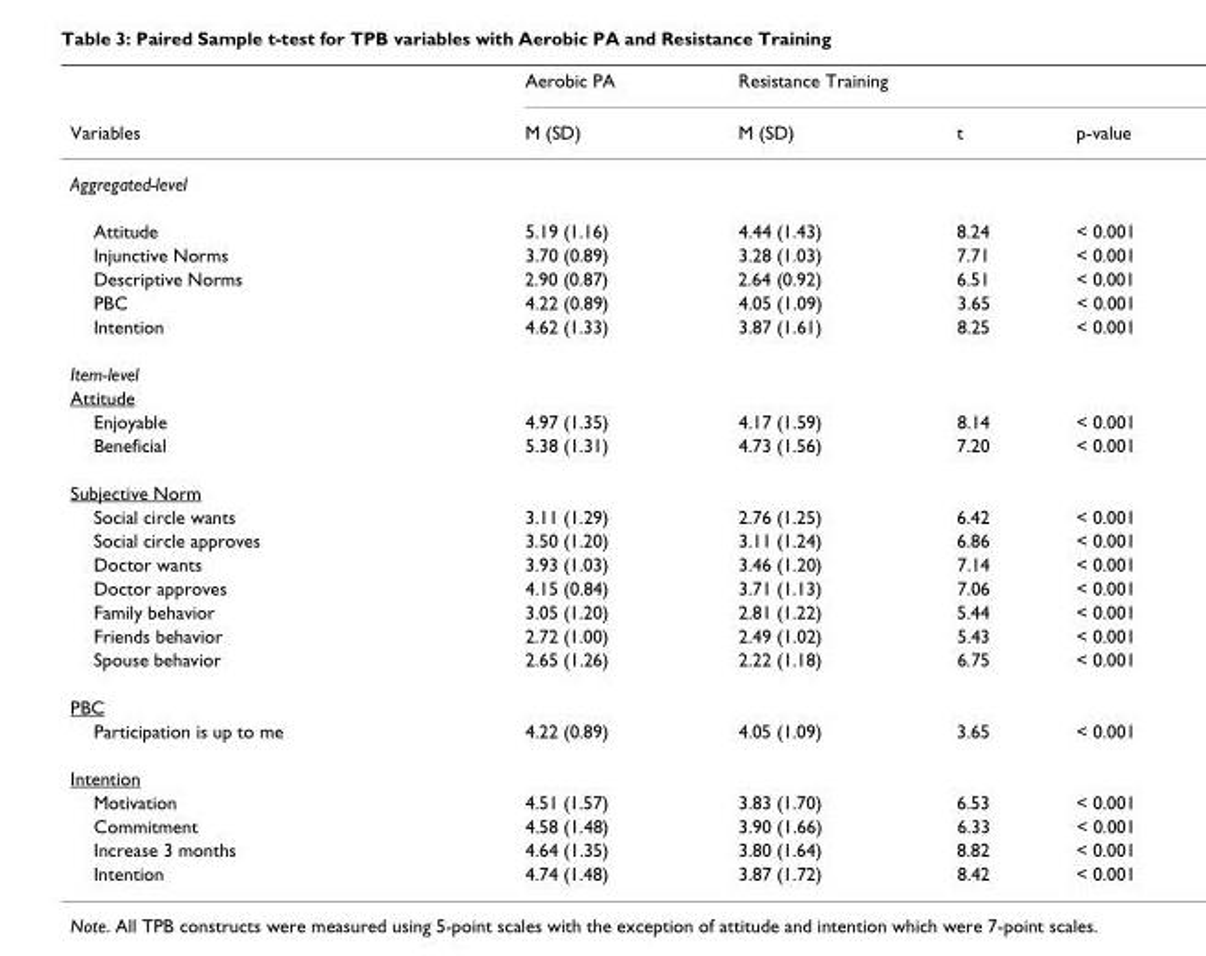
<table><thead><tr><td rowspan="2">Variables</td><td rowspan="2">Aerobic PA M (SD)</td><td colspan="2">Resistance Training</td><td rowspan="2">p-value</td></tr><tr><td>M (SD)</td><td>t</td></tr></thead><tbody><tr><td colspan="5">Aggregated-level</td></tr><tr><td>Attitude</td><td>5.19 (1.16)</td><td>4.44 (1.43)</td><td>8.24</td><td>&lt; 0.001</td></tr><tr><td>Injunctive Norms</td><td>3.70 (0.89)</td><td>3.28 (1.03)</td><td>7.71</td><td>&lt; 0.001</td></tr><tr><td>Descriptive Norms</td><td>2.90 (0.87)</td><td>2.64 (0.92)</td><td>6.51</td><td>&lt; 0.001</td></tr><tr><td>PBC</td><td>4.22 (0.89)</td><td>4.05 (1.09)</td><td>3.65</td><td>&lt; 0.001</td></tr><tr><td>Intention</td><td>4.62 (1.33)</td><td>3.87 (1.61)</td><td>8.25</td><td>&lt; 0.001</td></tr><tr><td colspan="5">Item-level</td></tr><tr><td colspan="5">Attitude</td></tr><tr><td>Enjoyable</td><td>4.97 (1.35)</td><td>4.17 (1.59)</td><td>8.14</td><td>&lt; 0.001</td></tr><tr><td>Beneficial</td><td>5.38 (1.31)</td><td>4.73 (1.56)</td><td>7.20</td><td>&lt; 0.001</td></tr><tr><td colspan="5">Subjective Norm</td></tr><tr><td>Social circle wants</td><td>3.11 (1.29)</td><td>2.76 (1.25)</td><td>6.42</td><td>&lt; 0.001</td></tr><tr><td>Social circle approves</td><td>3.50 (1.20)</td><td>3.11 (1.24)</td><td>6.86</td><td>&lt; 0.001</td></tr><tr><td>Doctor wants</td><td>3.93 (1.03)</td><td>3.46 (1.20)</td><td>7.14</td><td>&lt; 0.001</td></tr><tr><td>Doctor approves</td><td>4.15 (0.84)</td><td>3.71 (1.13)</td><td>7.06</td><td>&lt; 0.001</td></tr><tr><td>Family behavior</td><td>3.05 (1.20)</td><td>2.81 (1.22)</td><td>5.44</td><td>&lt; 0.001</td></tr><tr><td>Friends behavior</td><td>2.72 (1.00)</td><td>2.49 (1.02)</td><td>5.43</td><td>&lt; 0.001</td></tr><tr><td>Spouse behavior</td><td>2.65 (1.26)</td><td>2.22 (1.18)</td><td>6.75</td><td>&lt; 0.001</td></tr><tr><td colspan="5">PBC</td></tr><tr><td>Participation is up to me</td><td>4.22 (0.89)</td><td>4.05 (1.09)</td><td>3.65</td><td>&lt; 0.001</td></tr><tr><td colspan="5">Intention</td></tr><tr><td>Motivation</td><td>4.51 (1.57)</td><td>3.83 (1.70)</td><td>6.53</td><td>&lt; 0.001</td></tr><tr><td>Commitment</td><td>4.58 (1.48)</td><td>3.90 (1.66)</td><td>6.33</td><td>&lt; 0.001</td></tr><tr><td>Increase 3 months</td><td>4.64 (1.35)</td><td>3.80 (1.64)</td><td>8.82</td><td>&lt; 0.001</td></tr><tr><td>Intention</td><td>4.74 (1.48)</td><td>3.87 (1.72)</td><td>8.42</td><td>&lt; 0.001</td></tr></tbody></table>